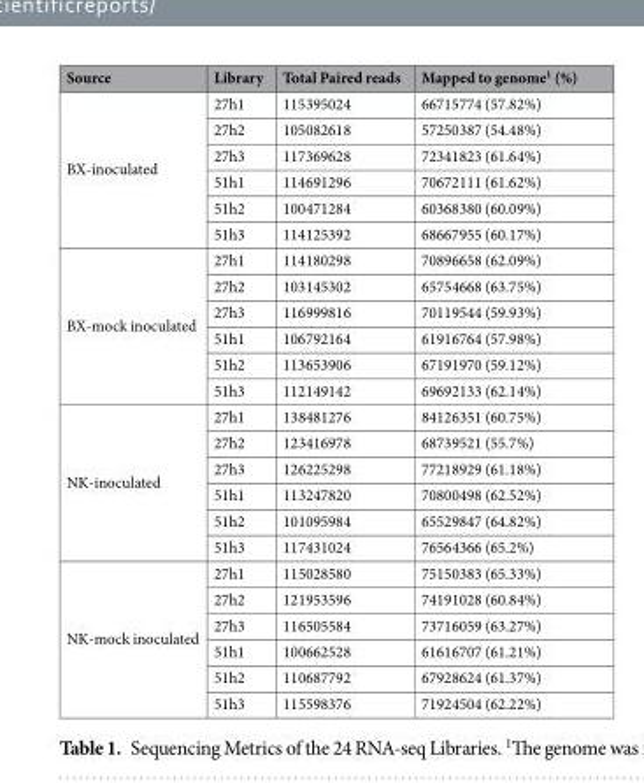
<table><thead><tr><td>Source</td><td>Library</td><td>Total Paired reads</td><td>Mapped to genome<sup>1</sup> (%)</td></tr></thead><tbody><tr><td rowspan="6">BX-inoculated</td><td>27h1</td><td>115395024</td><td>66715774 (57.82%)</td></tr><tr><td>27h2</td><td>105082618</td><td>57250387 (54.48%)</td></tr><tr><td>27h3</td><td>117369628</td><td>72341823 (61.64%)</td></tr><tr><td>51h1</td><td>114691296</td><td>70672111 (61.62%)</td></tr><tr><td>51h2</td><td>100471284</td><td>60368380 (60.09%)</td></tr><tr><td>51h3</td><td>114125392</td><td>68667955 (60.17%)</td></tr><tr><td rowspan="6">BX-mock inoculated</td><td>27h1</td><td>114180298</td><td>70896658 (62.09%)</td></tr><tr><td>27h2</td><td>103145302</td><td>65754668 (63.75%)</td></tr><tr><td>27h3</td><td>116999816</td><td>70119544 (59.93%)</td></tr><tr><td>51h1</td><td>106792164</td><td>61916764 (57.98%)</td></tr><tr><td>51h2</td><td>113653906</td><td>67191970 (59.12%)</td></tr><tr><td>51h3</td><td>112149142</td><td>69692133 (62.14%)</td></tr><tr><td rowspan="6">NK-inoculated</td><td>27h1</td><td>138481276</td><td>84126351 (60.75%)</td></tr><tr><td>27h2</td><td>123416978</td><td>68739521 (55.7%)</td></tr><tr><td>27h3</td><td>126225298</td><td>77218929 (61.18%)</td></tr><tr><td>51h1</td><td>113247820</td><td>70800498 (62.52%)</td></tr><tr><td>51h2</td><td>101095984</td><td>65529847 (64.82%)</td></tr><tr><td>51h3</td><td>117431024</td><td>76564366 (65.2%)</td></tr><tr><td rowspan="6">NK-mock inoculated</td><td>27h1</td><td>115028580</td><td>75150383 (65.33%)</td></tr><tr><td>27h2</td><td>121953596</td><td>74191028 (60.84%)</td></tr><tr><td>27h3</td><td>116505584</td><td>73716059 (63.27%)</td></tr><tr><td>51h1</td><td>100662528</td><td>61616707 (61.21%)</td></tr><tr><td>51h2</td><td>110687792</td><td>67928624 (61.37%)</td></tr><tr><td>51h3</td><td>115598376</td><td>71924504 (62.22%)</td></tr></tbody></table>